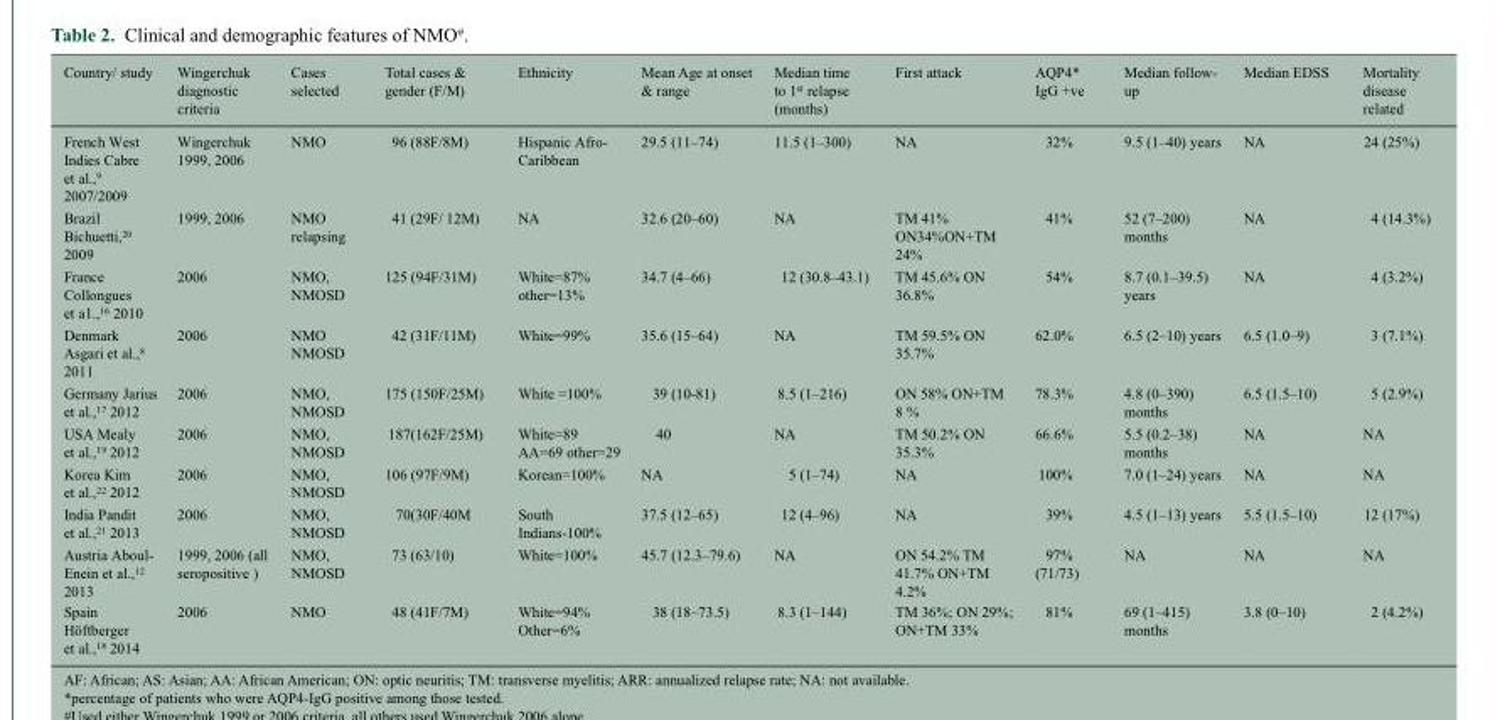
<table><thead><tr><td>Country/ study</td><td>Wingerchuk diagnostic criteria</td><td>Cases selected</td><td>Total cases &amp; gender (F/M)</td><td>Ethnicity</td><td>Mean Age at onset &amp; range</td><td>Median time to 1<sup>st</sup> relapse (months)</td><td>First attack</td><td>AQP4* IgG +ve</td><td>Median follow- up</td><td>Median EDSS</td><td>Mortality disease related</td></tr></thead><tbody><tr><td>French West Indies Cabre et al.,<sup>9</sup> 2007/2009</td><td>Wingerchuk 1999, 2006</td><td>NMO</td><td>96 (88F/8M)</td><td>Hispanic Afro- Caribbean</td><td>29.5 (11–74)</td><td>11.5 (1–300)</td><td>NA</td><td>32%</td><td>9.5 (1–40) years</td><td>NA</td><td>24 (25%)</td></tr><tr><td>Brazil Bichuetti,<sup>20</sup> 2009</td><td>1999, 2006</td><td>NMO relapsing</td><td>41 (29F/ 12M)</td><td>NA</td><td>32.6 (20–60)</td><td>NA</td><td>TM 41% ON34%ON+TM 24%</td><td>41%</td><td>52 (7–200) months</td><td>NA</td><td>4 (14.3%)</td></tr><tr><td>France Collongues et a1.,<sup>16</sup> 2010</td><td>2006</td><td>NMO, NMOSD</td><td>125 (94F/31M)</td><td>White=87% other=13%</td><td>34.7 (4–66)</td><td>12 (30.8–43.1)</td><td>TM 45.6% ON 36.8%</td><td>54%</td><td>8.7 (0.1–39.5) years</td><td>NA</td><td>4 (3.2%)</td></tr><tr><td>Denmark Asgari et al.,<sup>8</sup> 2011</td><td>2006</td><td>NMO NMOSD</td><td>42 (31F/11M)</td><td>White=99%</td><td>35.6 (15–64)</td><td>NA</td><td>TM 59.5% ON 35.7%</td><td>62.0%</td><td>6.5 (2–10) years</td><td>6.5 (1.0–9)</td><td>3 (7.1%)</td></tr><tr><td>Germany Jarius et al.,<sup>17</sup> 2012</td><td>2006</td><td>NMO, NMOSD</td><td>175 (150F/25M)</td><td>White =100%</td><td>39 (10-81)</td><td>8.5 (1–216)</td><td>ON 58% ON+TM 8 %</td><td>78.3%</td><td>4.8 (0–390) months</td><td>6.5 (1.5–10)</td><td>5 (2.9%)</td></tr><tr><td>USA Mealy et al.,<sup>19</sup> 2012</td><td>2006</td><td>NMO, NMOSD</td><td>187(162F/25M)</td><td>White=89 AA=69 other=29</td><td>40</td><td>NA</td><td>TM 50.2% ON 35.3%</td><td>66.6%</td><td>5.5 (0.2–38) months</td><td>NA</td><td>NA</td></tr><tr><td>Korea Kim et al.,<sup>22</sup> 2012</td><td>2006</td><td>NMO, NMOSD</td><td>106 (97F/9M)</td><td>Korean=100%</td><td>NA</td><td>5 (1–74)</td><td>NA</td><td>100%</td><td>7.0 (1–24) years</td><td>NA</td><td>NA</td></tr><tr><td>India Pandit et al.,<sup>21</sup> 2013</td><td>2006</td><td>NMO, NMOSD</td><td>70(30F/40M</td><td>South Indians-100%</td><td>37.5 (12–65)</td><td>12 (4–96)</td><td>NA</td><td>39%</td><td>4.5 (1–13) years</td><td>5.5 (1.5–10)</td><td>12 (17%)</td></tr><tr><td>Austria Aboul- Enein et al.,<sup>12</sup> 2013</td><td>1999, 2006 (all seropositive )</td><td>NMO, NMOSD</td><td>73 (63/10)</td><td>White=100%</td><td>45.7 (12.3–79.6)</td><td>NA</td><td>ON 54.2% TM 41.7% ON+TM 4.2%</td><td>97% (71/73)</td><td>NA</td><td>NA</td><td>NA</td></tr><tr><td>Spain Höftberger et al.,<sup>18</sup> 2014</td><td>2006</td><td>NMO</td><td>48 (41F/7M)</td><td>White=94% Other=6%</td><td>38 (18–73.5)</td><td>8.3 (1–144)</td><td>TM 36%; ON 29%; ON+TM 33%</td><td>81%</td><td>69 (1–415) months</td><td>3.8 (0–10)</td><td>2 (4.2%)</td></tr></tbody></table>